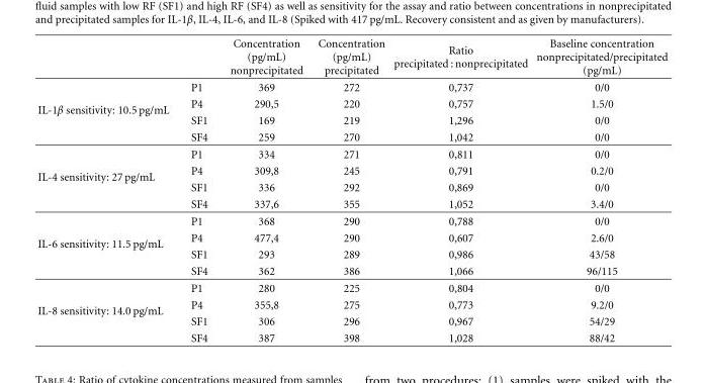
<table><thead><tr><td></td><td></td><td>Concentration (pg/mL) nonprecipitated</td><td>Concentration (pg/mL) precipitated</td><td>Ratio precipitated : nonprecipitated</td><td>Baseline concentration nonprecipitated/precipitated (pg/mL)</td></tr></thead><tbody><tr><td rowspan="4">IL-1β sensitivity: 10.5 pg/mL</td><td>P1</td><td>369</td><td>272</td><td>0,737</td><td>0/0</td></tr><tr><td>P4</td><td>290,5</td><td>220</td><td>0,757</td><td>1.5/0</td></tr><tr><td>SF1</td><td>169</td><td>219</td><td>1,296</td><td>0/0</td></tr><tr><td>SF4</td><td>259</td><td>270</td><td>1,042</td><td>0/0</td></tr><tr><td rowspan="4">IL-4 sensitivity: 27 pg/mL</td><td>P1</td><td>334</td><td>271</td><td>0,811</td><td>0/0</td></tr><tr><td>P4</td><td>309,8</td><td>245</td><td>0,791</td><td>0.2/0</td></tr><tr><td>SF1</td><td>336</td><td>292</td><td>0,869</td><td>0/0</td></tr><tr><td>SF4</td><td>337,6</td><td>355</td><td>1,052</td><td>3.4/0</td></tr><tr><td rowspan="4">IL-6 sensitivity: 11.5 pg/mL</td><td>P1</td><td>368</td><td>290</td><td>0,788</td><td>0/0</td></tr><tr><td>P4</td><td>477,4</td><td>290</td><td>0,607</td><td>2.6/0</td></tr><tr><td>SF1</td><td>293</td><td>289</td><td>0,986</td><td>43/58</td></tr><tr><td>SF4</td><td>362</td><td>386</td><td>1,066</td><td>96/115</td></tr><tr><td rowspan="4">IL-8 sensitivity: 14.0 pg/mL</td><td>P1</td><td>280</td><td>225</td><td>0,804</td><td>0/0</td></tr><tr><td>P4</td><td>355,8</td><td>275</td><td>0,773</td><td>9.2/0</td></tr><tr><td>SF1</td><td>306</td><td>296</td><td>0,967</td><td>54/29</td></tr><tr><td>SF4</td><td>387</td><td>398</td><td>1,028</td><td>88/42</td></tr></tbody></table>